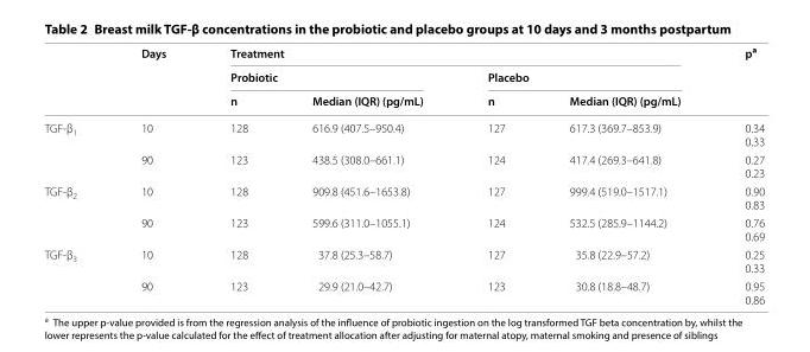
<table><thead><tr><td rowspan="3"></td><td rowspan="3">Days</td><td colspan="4">Treatment</td><td rowspan="3">p<sup>a</sup></td></tr><tr><td colspan="2">Probiotic</td><td colspan="2">Placebo</td></tr><tr><td>n</td><td>Median (IQR) (pg/mL)</td><td>n</td><td>Median (IQR) (pg/mL)</td></tr></thead><tbody><tr><td rowspan="2">TGF-β<sub>1</sub></td><td>10</td><td>128</td><td>616.9 (407.5–950.4)</td><td>127</td><td>617.3 (369.7–853.9)</td><td>0.34 0.33</td></tr><tr><td>90</td><td>123</td><td>438.5 (308.0–661.1)</td><td>124</td><td>417.4 (269.3–641.8)</td><td>0.27 0.23</td></tr><tr><td rowspan="2">TGF-β<sub>2</sub></td><td>10</td><td>128</td><td>909.8 (451.6–1653.8)</td><td>127</td><td>999.4 (519.0–1517.1)</td><td>0.90 0.83</td></tr><tr><td>90</td><td>123</td><td>599.6 (311.0–1055.1)</td><td>124</td><td>532.5 (285.9–1144.2)</td><td>0.76 0.69</td></tr><tr><td rowspan="2">TGF-β<sub>3</sub></td><td>10</td><td>128</td><td>37.8 (25.3–58.7)</td><td>127</td><td>35.8 (22.9–57.2)</td><td>0.25 0.33</td></tr><tr><td>90</td><td>123</td><td>29.9 (21.0–42.7)</td><td>123</td><td>30.8 (18.8–48.7)</td><td>0.95 0.86</td></tr></tbody></table>